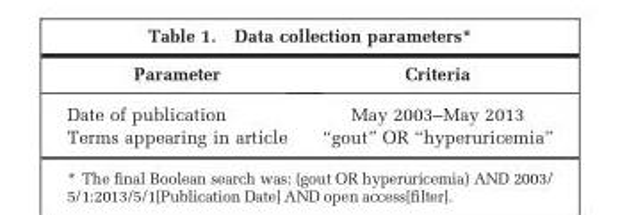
<table><thead><tr><td>Parameter</td><td>Criteria</td></tr></thead><tbody><tr><td>Date of publication</td><td>May 2003–May 2013</td></tr><tr><td>Terms appearing in article</td><td>“gout” OR “hyperuricemia”</td></tr></tbody></table>